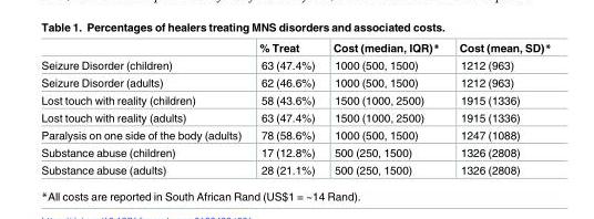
<table><thead><tr><td></td><td>% Treat</td><td>Cost (median, IQR)*</td><td>Cost (mean, SD)*</td></tr></thead><tbody><tr><td>Seizure Disorder (children)</td><td>63 (47.4%)</td><td>1000 (500, 1500)</td><td>1212 (963)</td></tr><tr><td>Seizure Disorder (adults)</td><td>62 (46.6%)</td><td>1000 (500, 1500)</td><td>1212 (963)</td></tr><tr><td>Lost touch with reality (children)</td><td>58 (43.6%)</td><td>1500 (1000, 2500)</td><td>1915 (1336)</td></tr><tr><td>Lost touch with reality (adults)</td><td>63 (47.4%)</td><td>1500 (1000, 2500)</td><td>1915 (1336)</td></tr><tr><td>Paralysis on one side of the body (adults)</td><td>78 (58.6%)</td><td>1000 (500, 1500)</td><td>1247 (1088)</td></tr><tr><td>Substance abuse (children)</td><td>17 (12.8%)</td><td>500 (250, 1500)</td><td>1326 (2808)</td></tr><tr><td>Substance abuse (adults)</td><td>28 (21.1%)</td><td>500 (250, 1500)</td><td>1326 (2808)</td></tr></tbody></table>